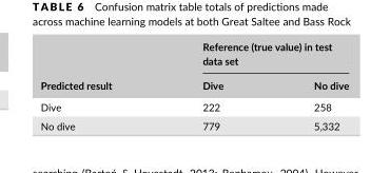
<table><thead><tr><td rowspan="2">Predicted result</td><td colspan="2">Reference (true value) in test data set</td></tr><tr><td>Dive</td><td>No dive</td></tr></thead><tbody><tr><td>Dive</td><td>222</td><td>258</td></tr><tr><td>No dive</td><td>779</td><td>5,332</td></tr></tbody></table>